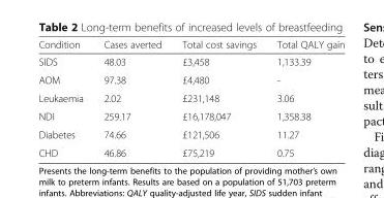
<table><thead><tr><td>Condition</td><td>Cases averted</td><td>Total cost savings</td><td>Total QALY gain</td></tr></thead><tbody><tr><td>SIDS</td><td>48.03</td><td>£3,458</td><td>1,133.39</td></tr><tr><td>AOM</td><td>97.38</td><td>£4,480</td><td>-</td></tr><tr><td>Leukaemia</td><td>2.02</td><td>£231,148</td><td>3.06</td></tr><tr><td>NDI</td><td>259.17</td><td>£16,178,047</td><td>1,358.38</td></tr><tr><td>Diabetes</td><td>74.66</td><td>£121,506</td><td>11.27</td></tr><tr><td>CHD</td><td>46.86</td><td>£75,219</td><td>0.75</td></tr></tbody></table>